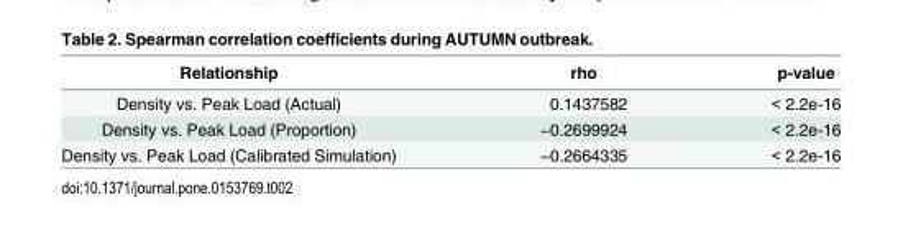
<table><thead><tr><td>Relationship</td><td>rho</td><td>p-value</td></tr></thead><tbody><tr><td>Density vs. Peak Load (Actual)</td><td>0.1437582</td><td>&lt; 2.2e-16</td></tr><tr><td>Density vs. Peak Load (Proportion)</td><td>−0.2699924</td><td>&lt; 2.2e-16</td></tr><tr><td>Density vs. Peak Load (Calibrated Simulation)</td><td>−0.2664335</td><td>&lt; 2.2e-16</td></tr></tbody></table>